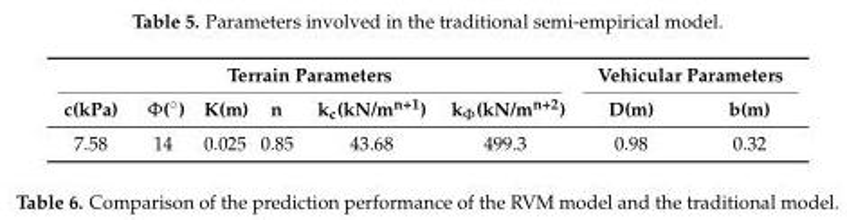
<table><thead><tr><td colspan="6">Terrain Parameters</td><td colspan="2">Vehicular Parameters</td></tr><tr><td>c(kPa)</td><td>Φ(˝)</td><td>K(m)</td><td>n</td><td>k<sub>c</sub>(kN/m<sup>n+1</sup>)</td><td>k<sub>Φ</sub>(kN/m<sup>n+2</sup>)</td><td>D(m)</td><td>b(m)</td></tr></thead><tbody><tr><td>7.58</td><td>14</td><td>0.025</td><td>0.85</td><td>43.68</td><td>499.3</td><td>0.98</td><td>0.32</td></tr></tbody></table>